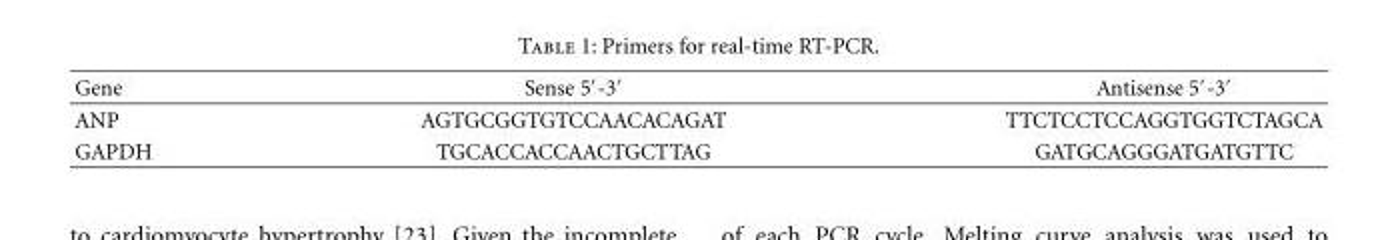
<table><thead><tr><td>Gene</td><td>Sense 5<sup>′</sup>-3<sup>′</sup></td><td>Antisense 5<sup>′</sup>-3<sup>′</sup></td></tr></thead><tbody><tr><td>ANP</td><td>AGTGCGGTGTCCAACACAGAT</td><td>TTCTCCTCCAGGTGGTCTAGCA</td></tr><tr><td>GAPDH</td><td>TGCACCACCAACTGCTTAG</td><td>GATGCAGGGATGATGTTC</td></tr></tbody></table>